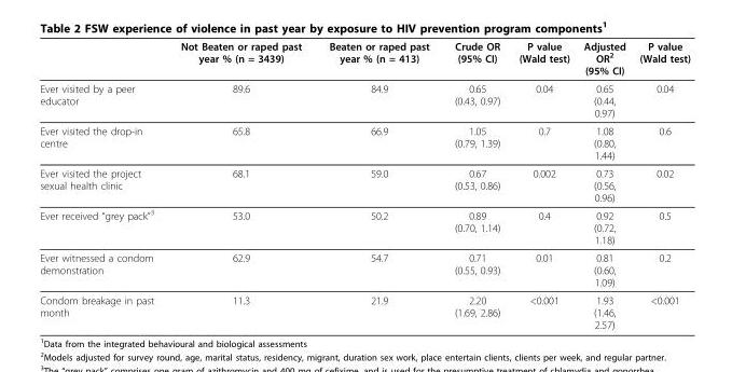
<table><thead><tr><td></td><td>Not Beaten or raped past year % (n = 3439)</td><td>Beaten or raped past year % (n = 413)</td><td>Crude OR (95% CI)</td><td>P value (Wald test)</td><td>Adjusted OR<sup>2</sup> (95% CI)</td><td>P value (Wald test)</td></tr></thead><tbody><tr><td>Ever visited by a peer educator</td><td>89.6</td><td>84.9</td><td>0.65 (0.43, 0.97)</td><td>0.04</td><td>0.65 (0.44, 0.97)</td><td>0.04</td></tr><tr><td>Ever visited the drop-in centre</td><td>65.8</td><td>66.9</td><td>1.05 (0.79, 1.39)</td><td>0.7</td><td>1.08 (0.80, 1.44)</td><td>0.6</td></tr><tr><td>Ever visited the project sexual health clinic</td><td>68.1</td><td>59.0</td><td>0.67 (0.53, 0.86)</td><td>0.002</td><td>0.73 (0.56, 0.96)</td><td>0.02</td></tr><tr><td>Ever received “grey pack”3</td><td>53.0</td><td>50.2</td><td>0.89 (0.70, 1.14)</td><td>0.4</td><td>0.92 (0.72, 1.18)</td><td>0.5</td></tr><tr><td>Ever witnessed a condom demonstration</td><td>62.9</td><td>54.7</td><td>0.71 (0.55, 0.93)</td><td>0.01</td><td>0.81 (0.60, 1.09)</td><td>0.2</td></tr><tr><td>Condom breakage in past month</td><td>11.3</td><td>21.9</td><td>2.20 (1.69, 2.86)</td><td>&lt;0.001</td><td>1.93 (1.46, 2.57)</td><td>&lt;0.001</td></tr></tbody></table>